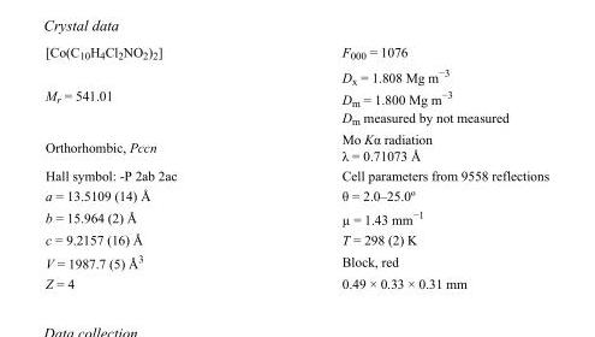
<table><tbody><tr><td>[Co(C<sub>10</sub>H<sub>4</sub>Cl<sub>2</sub>NO<sub>2</sub>)<sub>2</sub>]</td><td>F<sub>000</sub> = 1076</td></tr><tr><td>M<sub>r</sub> = 541.01</td><td>D<sub>x</sub> = 1.808 Mg m<sup>−3</sup> D<sub>m</sub> = 1.800 Mg m<sup>−3</sup> D<sub>m</sub> measured by not measured</td></tr><tr><td>Orthorhombic, Pccn</td><td>Mo Kα radiation λ = 0.71073 Å</td></tr><tr><td>Hall symbol: -P 2ab 2ac</td><td>Cell parameters from 9558 reflections</td></tr><tr><td>a = 13.5109 (14) Å</td><td>θ = 2.0–25.0º</td></tr><tr><td>b = 15.964 (2) Å</td><td>µ = 1.43 mm<sup>−1</sup></td></tr><tr><td>c = 9.2157 (16) Å</td><td>T = 298 (2) K</td></tr><tr><td>V = 1987.7 (5) Å<sup>3</sup></td><td>Block, red</td></tr><tr><td>Z = 4</td><td>0.49 × 0.33 × 0.31 mm</td></tr></tbody></table>